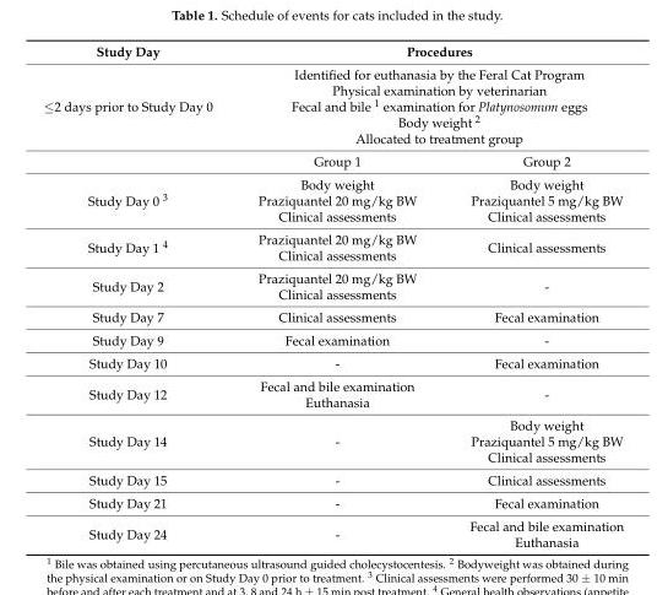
<table><thead><tr><td rowspan="3">Study Day ≤2 days prior to Study Day 0</td><td rowspan="2" colspan="2">Procedures Identified for euthanasia by the Feral Cat Program Physical examination by veterinarian Fecal and bile <sup>1</sup> examination for Platynosomum eggs Body weight <sup>2</sup> Allocated to treatment group</td></tr><tr></tr><tr><td>Group 1</td><td>Group 2</td></tr></thead><tbody><tr><td>Study Day 0 <sup>3</sup></td><td>Body weight Praziquantel 20 mg/kg BW Clinical assessments</td><td>Body weight Praziquantel 5 mg/kg BW Clinical assessments</td></tr><tr><td>Study Day 1 <sup>4</sup></td><td>Praziquantel 20 mg/kg BW Clinical assessments</td><td>Clinical assessments</td></tr><tr><td>Study Day 2</td><td>Praziquantel 20 mg/kg BW Clinical assessments</td><td>-</td></tr><tr><td>Study Day 7</td><td>Clinical assessments</td><td>Fecal examination</td></tr><tr><td>Study Day 9</td><td>Fecal examination</td><td>-</td></tr><tr><td>Study Day 10</td><td>-</td><td>Fecal examination</td></tr><tr><td>Study Day 12</td><td>Fecal and bile examination Euthanasia</td><td>-</td></tr><tr><td>Study Day 14</td><td>-</td><td>Body weight Praziquantel 5 mg/kg BW Clinical assessments</td></tr><tr><td>Study Day 15</td><td>-</td><td>Clinical assessments</td></tr><tr><td>Study Day 21</td><td>-</td><td>Fecal examination</td></tr><tr><td>Study Day 24</td><td>-</td><td>Fecal and bile examination Euthanasia</td></tr></tbody></table>